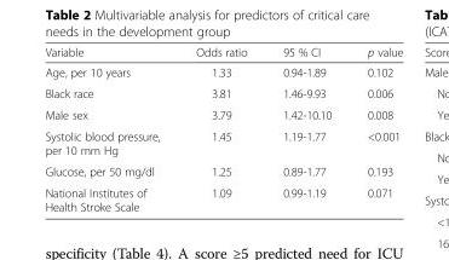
<table><thead><tr><td>Variable</td><td>Odds ratio</td><td>95 % CI</td><td>p value</td></tr></thead><tbody><tr><td>Age, per 10 years</td><td>1.33</td><td>0.94-1.89</td><td>0.102</td></tr><tr><td>Black race</td><td>3.81</td><td>1.46-9.93</td><td>0.006</td></tr><tr><td>Male sex</td><td>3.79</td><td>1.42-10.10</td><td>0.008</td></tr><tr><td>Systolic blood pressure, per 10 mm Hg</td><td>1.45</td><td>1.19-1.77</td><td>&lt;0.001</td></tr><tr><td>Glucose, per 50 mg/dl</td><td>1.25</td><td>0.89-1.77</td><td>0.193</td></tr><tr><td>National Institutes of Health Stroke Scale</td><td>1.09</td><td>0.99-1.19</td><td>0.071</td></tr></tbody></table>